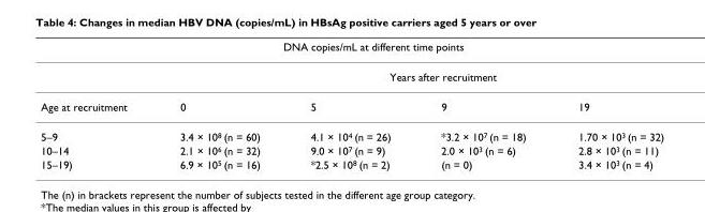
<table><thead><tr><td colspan="5">DNA copies/mL at different time points</td></tr><tr><td rowspan="2">Age at recruitment</td><td colspan="4">Years after recruitment</td></tr><tr><td>0</td><td>5</td><td>9</td><td>19</td></tr></thead><tbody><tr><td>5–9</td><td>3.4 × 10<sup>8</sup> (n = 60)</td><td>4.1 × 10<sup>4</sup> (n = 26)</td><td>*3.2 × 10<sup>7</sup> (n = 18)</td><td>1.70 × 10<sup>3</sup> (n = 32)</td></tr><tr><td>10–14</td><td>2.1 × 10<sup>6</sup> (n = 32)</td><td>9.0 × 10<sup>7</sup> (n = 9)</td><td>2.0 × 10<sup>3</sup> (n = 6)</td><td>2.8 × 10<sup>3</sup> (n = 11)</td></tr><tr><td>15–19)</td><td>6.9 × 10<sup>5</sup> (n = 16)</td><td>*2.5 × 10<sup>8</sup> (n = 2)</td><td>(n = 0)</td><td>3.4 × 10<sup>3</sup> (n = 4)</td></tr></tbody></table>